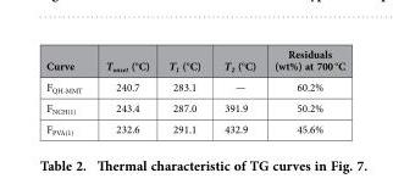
<table><thead><tr><td>Curve</td><td>T<sub>onset</sub> (°C)</td><td>T<sub>1</sub> (°C)</td><td>T<sub>2</sub> (°C)</td><td>Residuals (wt%) at 700 °C</td></tr></thead><tbody><tr><td>F<sub>QH-MMT</sub></td><td>240.7</td><td>283.1</td><td>—</td><td>60.2%</td></tr><tr><td>F<sub>NCH(1)</sub></td><td>243.4</td><td>287.0</td><td>391.9</td><td>50.2%</td></tr><tr><td>F<sub>PVA(1)</sub></td><td>232.6</td><td>291.1</td><td>432.9</td><td>45.6%</td></tr></tbody></table>